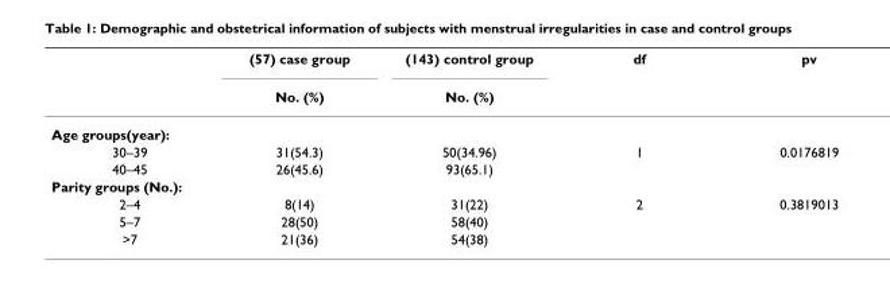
<table><thead><tr><td rowspan="2"></td><td rowspan="2">(57) case group No. (%)</td><td rowspan="2">(143) control group No. (%)</td><td rowspan="2">df</td><td rowspan="2">pv</td></tr><tr></tr></thead><tbody><tr><td colspan="5">Age groups(year):</td></tr><tr><td>30–39</td><td>31(54.3)</td><td>50(34.96)</td><td>1</td><td>0.0176819</td></tr><tr><td>40–45</td><td>26(45.6)</td><td>93(65.1)</td><td></td><td></td></tr><tr><td colspan="5">Parity groups (No.):</td></tr><tr><td>2–4</td><td>8(14)</td><td>31(22)</td><td>2</td><td>0.3819013</td></tr><tr><td>5–7</td><td>28(50)</td><td>58(40)</td><td></td><td></td></tr><tr><td>&gt;7</td><td>21(36)</td><td>54(38)</td><td></td><td></td></tr></tbody></table>